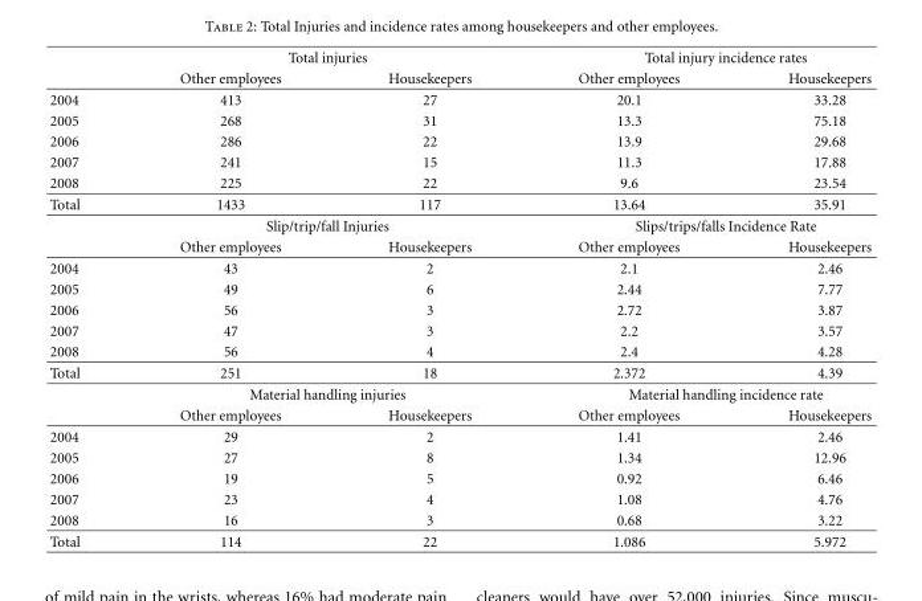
<table><thead><tr><td rowspan="2"></td><td colspan="2">Total injuries</td><td colspan="2">Total injury incidence rates</td></tr><tr><td>Other employees</td><td>Housekeepers</td><td>Other employees</td><td>Housekeepers</td></tr></thead><tbody><tr><td>2004</td><td>413</td><td>27</td><td>20.1</td><td>33.28</td></tr><tr><td>2005</td><td>268</td><td>31</td><td>13.3</td><td>75.18</td></tr><tr><td>2006</td><td>286</td><td>22</td><td>13.9</td><td>29.68</td></tr><tr><td>2007</td><td>241</td><td>15</td><td>11.3</td><td>17.88</td></tr><tr><td>2008</td><td>225</td><td>22</td><td>9.6</td><td>23.54</td></tr><tr><td rowspan="3">Total</td><td>1433</td><td>117</td><td>13.64</td><td>35.91</td></tr><tr><td colspan="2">Slip/trip/fall Injuries</td><td colspan="2">Slips/trips/falls Incidence Rate</td></tr><tr><td>Other employees</td><td>Housekeepers</td><td>Other employees</td><td>Housekeepers</td></tr><tr><td>2004</td><td>43</td><td>2</td><td>2.1</td><td>2.46</td></tr><tr><td>2005</td><td>49</td><td>6</td><td>2.44</td><td>7.77</td></tr><tr><td>2006</td><td>56</td><td>3</td><td>2.72</td><td>3.87</td></tr><tr><td>2007</td><td>47</td><td>3</td><td>2.2</td><td>3.57</td></tr><tr><td>2008</td><td>56</td><td>4</td><td>2.4</td><td>4.28</td></tr><tr><td rowspan="3">Total</td><td>251</td><td>18</td><td>2.372</td><td>4.39</td></tr><tr><td colspan="2">Material handling injuries</td><td colspan="2">Material handling incidence rate</td></tr><tr><td>Other employees</td><td>Housekeepers</td><td>Other employees</td><td>Housekeepers</td></tr><tr><td>2004</td><td>29</td><td>2</td><td>1.41</td><td>2.46</td></tr><tr><td>2005</td><td>27</td><td>8</td><td>1.34</td><td>12.96</td></tr><tr><td>2006</td><td>19</td><td>5</td><td>0.92</td><td>6.46</td></tr><tr><td>2007</td><td>23</td><td>4</td><td>1.08</td><td>4.76</td></tr><tr><td>2008</td><td>16</td><td>3</td><td>0.68</td><td>3.22</td></tr><tr><td>Total</td><td>114</td><td>22</td><td>1.086</td><td>5.972</td></tr></tbody></table>